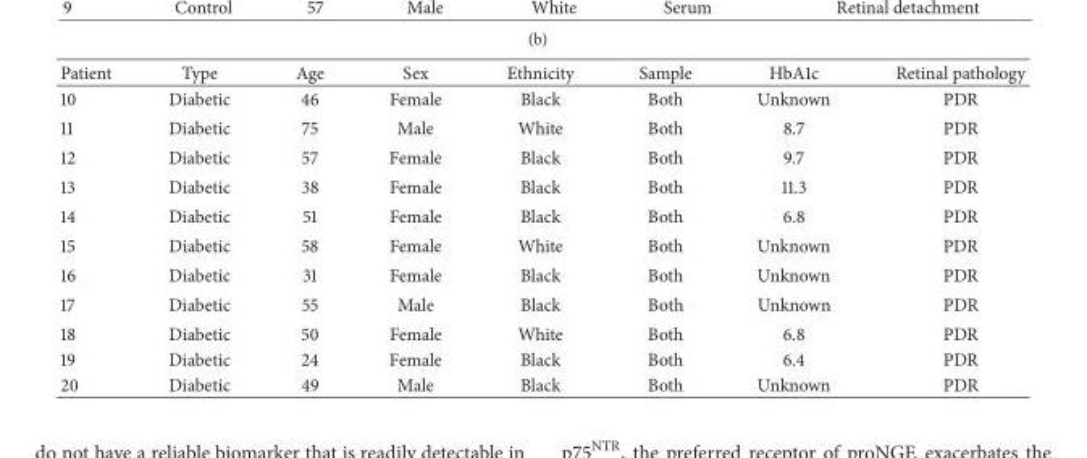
<table><thead><tr><td>Patient</td><td>Type</td><td>Age</td><td>Sex</td><td>Ethnicity</td><td>Sample</td><td>HbA1c</td><td>Retinal pathology</td></tr></thead><tbody><tr><td>10</td><td>Diabetic</td><td>46</td><td>Female</td><td>Black</td><td>Both</td><td>Unknown</td><td>PDR</td></tr><tr><td>11</td><td>Diabetic</td><td>75</td><td>Male</td><td>White</td><td>Both</td><td>8.7</td><td>PDR</td></tr><tr><td>12</td><td>Diabetic</td><td>57</td><td>Female</td><td>Black</td><td>Both</td><td>9.7</td><td>PDR</td></tr><tr><td>13</td><td>Diabetic</td><td>38</td><td>Female</td><td>Black</td><td>Both</td><td>11.3</td><td>PDR</td></tr><tr><td>14</td><td>Diabetic</td><td>51</td><td>Female</td><td>Black</td><td>Both</td><td>6.8</td><td>PDR</td></tr><tr><td>15</td><td>Diabetic</td><td>58</td><td>Female</td><td>White</td><td>Both</td><td>Unknown</td><td>PDR</td></tr><tr><td>16</td><td>Diabetic</td><td>31</td><td>Female</td><td>Black</td><td>Both</td><td>Unknown</td><td>PDR</td></tr><tr><td>17</td><td>Diabetic</td><td>55</td><td>Male</td><td>Black</td><td>Both</td><td>Unknown</td><td>PDR</td></tr><tr><td>18</td><td>Diabetic</td><td>50</td><td>Female</td><td>White</td><td>Both</td><td>6.8</td><td>PDR</td></tr><tr><td>19</td><td>Diabetic</td><td>24</td><td>Female</td><td>Black</td><td>Both</td><td>6.4</td><td>PDR</td></tr><tr><td>20</td><td>Diabetic</td><td>49</td><td>Male</td><td>Black</td><td>Both</td><td>Unknown</td><td>PDR</td></tr></tbody></table>